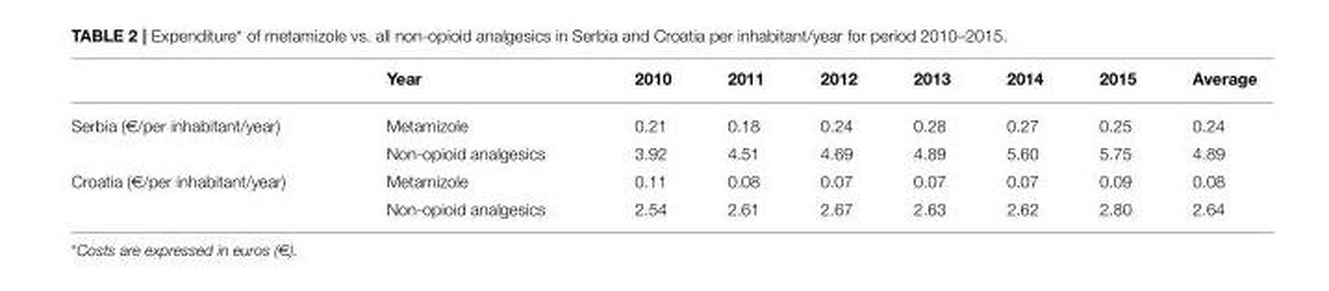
<table><thead><tr><td></td><td>Year</td><td>2010</td><td>2011</td><td>2012</td><td>2013</td><td>2014</td><td>2015</td><td>Average</td></tr></thead><tbody><tr><td rowspan="2">Serbia (€/per inhabitant/year)</td><td>Metamizole</td><td>0.21</td><td>0.18</td><td>0.24</td><td>0.28</td><td>0.27</td><td>0.25</td><td>0.24</td></tr><tr><td>Non-opioid analgesics</td><td>3.92</td><td>4.51</td><td>4.69</td><td>4.89</td><td>5.60</td><td>5.75</td><td>4.89</td></tr><tr><td rowspan="2">Croatia (€/per inhabitant/year)</td><td>Metamizole</td><td>0.11</td><td>0.08</td><td>0.07</td><td>0.07</td><td>0.07</td><td>0.09</td><td>0.08</td></tr><tr><td>Non-opioid analgesics</td><td>2.54</td><td>2.61</td><td>2.67</td><td>2.63</td><td>2.62</td><td>2.80</td><td>2.64</td></tr></tbody></table>